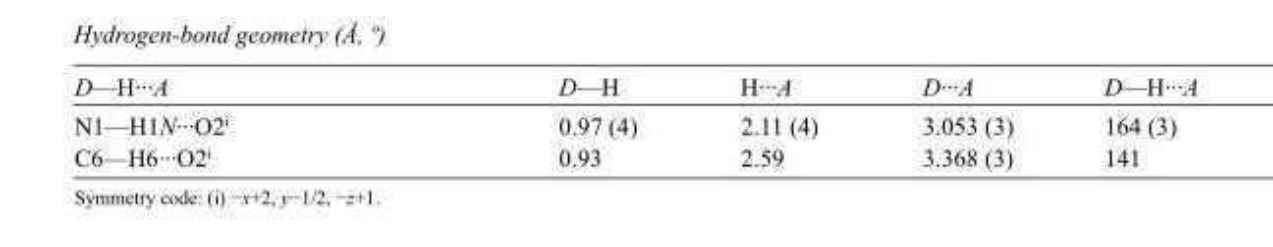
<table><tbody><tr><td>D—H···A</td><td>D—H</td><td>H···A</td><td>D···A</td><td>D—H···A</td></tr><tr><td>N1—H1N···O2<sup>i</sup></td><td>0.97 (4)</td><td>2.11 (4)</td><td>3.053 (3)</td><td>164 (3)</td></tr><tr><td>C6—H6···O2<sup>i</sup></td><td>0.93</td><td>2.59</td><td>3.368 (3)</td><td>141</td></tr></tbody></table>